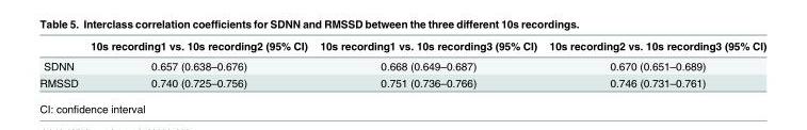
<table><thead><tr><td></td><td>10s recording1 vs. 10s recording2 (95% CI)</td><td>10s recording1 vs. 10s recording3 (95% CI)</td><td>10s recording2 vs. 10s recording3 (95% CI)</td></tr></thead><tbody><tr><td>SDNN</td><td>0.657 (0.638–0.676)</td><td>0.668 (0.649–0.687)</td><td>0.670 (0.651–0.689)</td></tr><tr><td>RMSSD</td><td>0.740 (0.725–0.756)</td><td>0.751 (0.736–0.766)</td><td>0.746 (0.731–0.761)</td></tr></tbody></table>